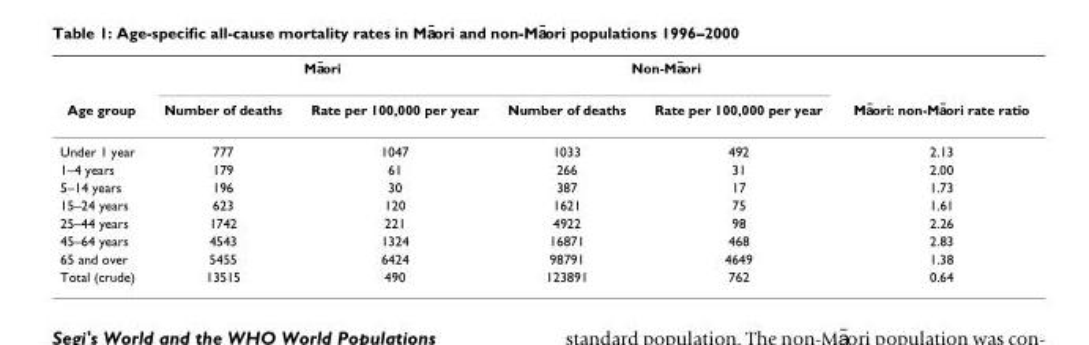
<table><thead><tr><td rowspan="2">Age group</td><td colspan="2">Ma¯ori</td><td colspan="2">Non-Ma¯ori</td><td rowspan="2">Ma¯ori: non-Ma¯ori rate ratio</td></tr><tr><td>Number of deaths</td><td>Rate per 100,000 per year</td><td>Number of deaths</td><td>Rate per 100,000 per year</td></tr></thead><tbody><tr><td>Under 1 year</td><td>777</td><td>1047</td><td>1033</td><td>492</td><td>2.13</td></tr><tr><td>1–4 years</td><td>179</td><td>61</td><td>266</td><td>31</td><td>2.00</td></tr><tr><td>5–14 years</td><td>196</td><td>30</td><td>387</td><td>17</td><td>1.73</td></tr><tr><td>15–24 years</td><td>623</td><td>120</td><td>1621</td><td>75</td><td>1.61</td></tr><tr><td>25–44 years</td><td>1742</td><td>221</td><td>4922</td><td>98</td><td>2.26</td></tr><tr><td>45–64 years</td><td>4543</td><td>1324</td><td>16871</td><td>468</td><td>2.83</td></tr><tr><td>65 and over</td><td>5455</td><td>6424</td><td>98791</td><td>4649</td><td>1.38</td></tr><tr><td>Total (crude)</td><td>13515</td><td>490</td><td>123891</td><td>762</td><td>0.64</td></tr></tbody></table>